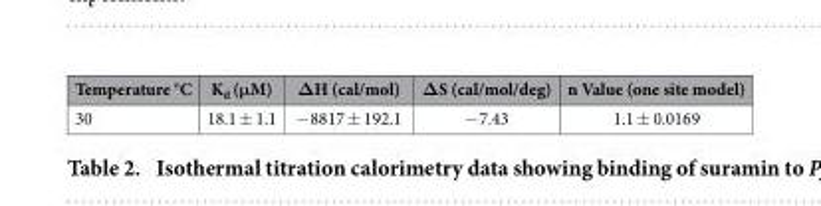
<table><thead><tr><td>Temperature °C</td><td>K<sub>d</sub> (μM)</td><td>ΔH (cal/mol)</td><td>ΔS (cal/mol/deg)</td><td>n Value (one site model)</td></tr></thead><tbody><tr><td>30</td><td>18.1 ± 1.1</td><td>− 8817 ± 192.1</td><td>− 7.43</td><td>1.1 ± 0.0169</td></tr></tbody></table>